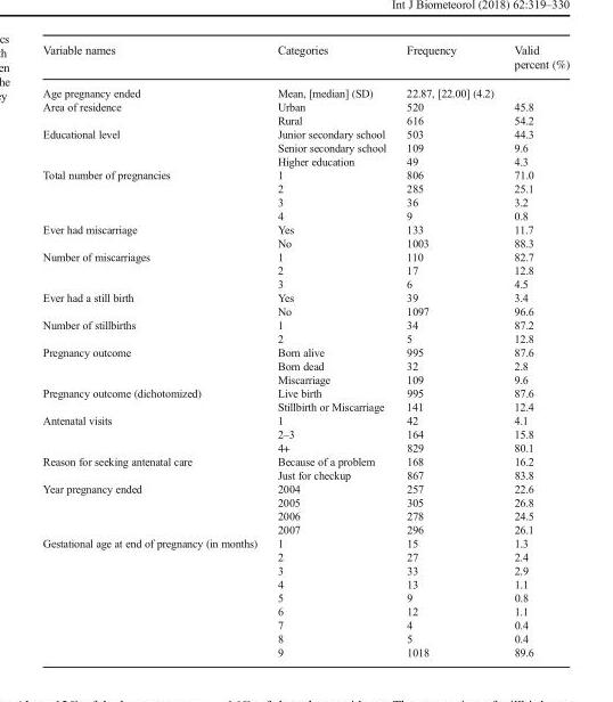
<table><thead><tr><td>Variable names</td><td>Categories</td><td>Frequency</td><td>Valid percent (%)</td></tr></thead><tbody><tr><td>Age pregnancy ended</td><td>Mean, [median] (SD)</td><td>22.87, [22.00] (4.2)</td><td></td></tr><tr><td rowspan="2">Area of residence</td><td>Urban</td><td>520</td><td>45.8</td></tr><tr><td>Rural</td><td>616</td><td>54.2</td></tr><tr><td rowspan="3">Educational level</td><td>Junior secondary school</td><td>503</td><td>44.3</td></tr><tr><td>Senior secondary school</td><td>109</td><td>9.6</td></tr><tr><td>Higher education</td><td>49</td><td>4.3</td></tr><tr><td rowspan="4">Total number of pregnancies</td><td>1</td><td>806</td><td>71.0</td></tr><tr><td>2</td><td>285</td><td>25.1</td></tr><tr><td>3</td><td>36</td><td>3.2</td></tr><tr><td>4</td><td>9</td><td>0.8</td></tr><tr><td rowspan="2">Ever had miscarriage</td><td>Yes</td><td>133</td><td>11.7</td></tr><tr><td>No</td><td>1003</td><td>88.3</td></tr><tr><td rowspan="3">Number of miscarriages</td><td>1</td><td>110</td><td>82.7</td></tr><tr><td>2</td><td>17</td><td>12.8</td></tr><tr><td>3</td><td>6</td><td>4.5</td></tr><tr><td rowspan="2">Ever had a still birth</td><td>Yes</td><td>39</td><td>3.4</td></tr><tr><td>No</td><td>1097</td><td>96.6</td></tr><tr><td rowspan="2">Number of stillbirths</td><td>1</td><td>34</td><td>87.2</td></tr><tr><td>2</td><td>5</td><td>12.8</td></tr><tr><td rowspan="3">Pregnancy outcome</td><td>Born alive</td><td>995</td><td>87.6</td></tr><tr><td>Born dead</td><td>32</td><td>2.8</td></tr><tr><td>Miscarriage</td><td>109</td><td>9.6</td></tr><tr><td rowspan="2">Pregnancy outcome (dichotomized)</td><td>Live birth</td><td>995</td><td>87.6</td></tr><tr><td>Stillbirth or Miscarriage</td><td>141</td><td>12.4</td></tr><tr><td rowspan="3">Antenatal visits</td><td>1</td><td>42</td><td>4.1</td></tr><tr><td>2–3</td><td>164</td><td>15.8</td></tr><tr><td>4+</td><td>829</td><td>80.1</td></tr><tr><td rowspan="2">Reason for seeking antenatal care</td><td>Because of a problem</td><td>168</td><td>16.2</td></tr><tr><td>Just for checkup</td><td>867</td><td>83.8</td></tr><tr><td rowspan="4">Year pregnancy ended</td><td>2004</td><td>257</td><td>22.6</td></tr><tr><td>2005</td><td>305</td><td>26.8</td></tr><tr><td>2006</td><td>278</td><td>24.5</td></tr><tr><td>2007</td><td>296</td><td>26.1</td></tr><tr><td rowspan="9">Gestational age at end of pregnancy (in months)</td><td>1</td><td>15</td><td>1.3</td></tr><tr><td>2</td><td>27</td><td>2.4</td></tr><tr><td>3</td><td>33</td><td>2.9</td></tr><tr><td>4</td><td>13</td><td>1.1</td></tr><tr><td>5</td><td>9</td><td>0.8</td></tr><tr><td>6</td><td>12</td><td>1.1</td></tr><tr><td>7</td><td>4</td><td>0.4</td></tr><tr><td>8</td><td>5</td><td>0.4</td></tr><tr><td>9</td><td>1018</td><td>89.6</td></tr></tbody></table>